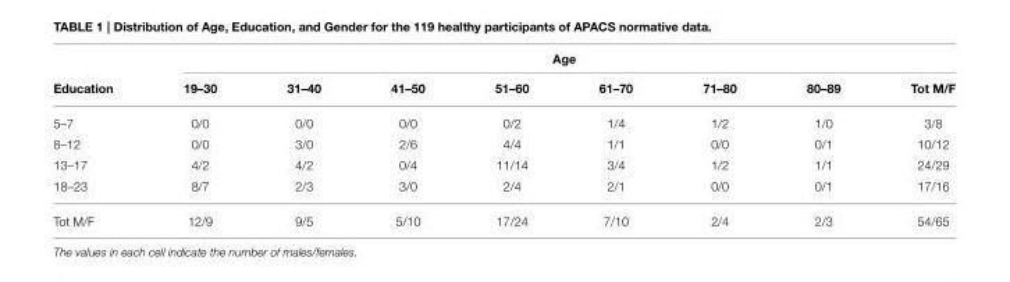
<table><thead><tr><td rowspan="2">Education</td><td colspan="8">Age</td></tr><tr><td>19–30</td><td>31–40</td><td>41–50</td><td>51–60</td><td>61–70</td><td>71–80</td><td>80–89</td><td>Tot M/F</td></tr></thead><tbody><tr><td>5–7</td><td>0/0</td><td>0/0</td><td>0/0</td><td>0/2</td><td>1/4</td><td>1/2</td><td>1/0</td><td>3/8</td></tr><tr><td>8–12</td><td>0/0</td><td>3/0</td><td>2/6</td><td>4/4</td><td>1/1</td><td>0/0</td><td>0/1</td><td>10/12</td></tr><tr><td>13–17</td><td>4/2</td><td>4/2</td><td>0/4</td><td>11/14</td><td>3/4</td><td>1/2</td><td>1/1</td><td>24/29</td></tr><tr><td>18–23</td><td>8/7</td><td>2/3</td><td>3/0</td><td>2/4</td><td>2/1</td><td>0/0</td><td>0/1</td><td>17/16</td></tr><tr><td>Tot M/F</td><td>12/9</td><td>9/5</td><td>5/10</td><td>17/24</td><td>7/10</td><td>2/4</td><td>2/3</td><td>54/65</td></tr></tbody></table>